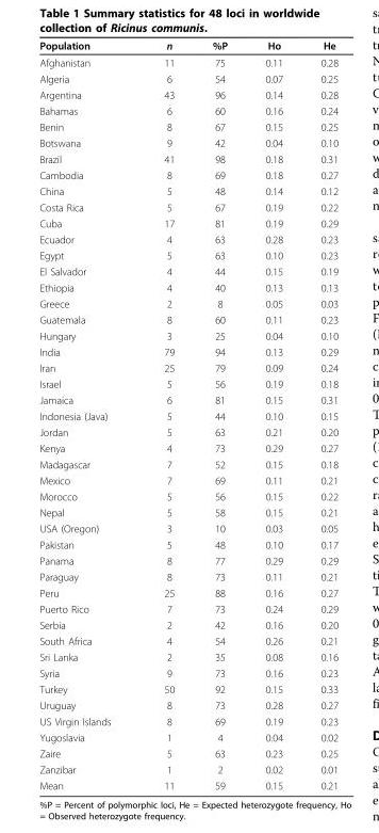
<table><thead><tr><td>Population</td><td>n</td><td>%P</td><td>Ho</td><td>He</td></tr></thead><tbody><tr><td>Afghanistan</td><td>11</td><td>75</td><td>0.11</td><td>0.28</td></tr><tr><td>Algeria</td><td>6</td><td>54</td><td>0.07</td><td>0.25</td></tr><tr><td>Argentina</td><td>43</td><td>96</td><td>0.14</td><td>0.28</td></tr><tr><td>Bahamas</td><td>6</td><td>60</td><td>0.16</td><td>0.24</td></tr><tr><td>Benin</td><td>8</td><td>67</td><td>0.15</td><td>0.25</td></tr><tr><td>Botswana</td><td>9</td><td>42</td><td>0.04</td><td>0.10</td></tr><tr><td>Brazil</td><td>41</td><td>98</td><td>0.18</td><td>0.31</td></tr><tr><td>Cambodia</td><td>8</td><td>69</td><td>0.18</td><td>0.27</td></tr><tr><td>China</td><td>5</td><td>48</td><td>0.14</td><td>0.12</td></tr><tr><td>Costa Rica</td><td>5</td><td>67</td><td>0.19</td><td>0.22</td></tr><tr><td>Cuba</td><td>17</td><td>81</td><td>0.19</td><td>0.29</td></tr><tr><td>Ecuador</td><td>4</td><td>63</td><td>0.28</td><td>0.23</td></tr><tr><td>Egypt</td><td>5</td><td>63</td><td>0.10</td><td>0.23</td></tr><tr><td>El Salvador</td><td>4</td><td>44</td><td>0.15</td><td>0.19</td></tr><tr><td>Ethiopia</td><td>4</td><td>40</td><td>0.13</td><td>0.13</td></tr><tr><td>Greece</td><td>2</td><td>8</td><td>0.05</td><td>0.03</td></tr><tr><td>Guatemala</td><td>8</td><td>60</td><td>0.11</td><td>0.23</td></tr><tr><td>Hungary</td><td>3</td><td>25</td><td>0.04</td><td>0.10</td></tr><tr><td>India</td><td>79</td><td>94</td><td>0.13</td><td>0.29</td></tr><tr><td>Iran</td><td>25</td><td>79</td><td>0.09</td><td>0.24</td></tr><tr><td>Israel</td><td>5</td><td>56</td><td>0.19</td><td>0.18</td></tr><tr><td>Jamaica</td><td>6</td><td>81</td><td>0.15</td><td>0.31</td></tr><tr><td>Indonesia (Java)</td><td>5</td><td>44</td><td>0.10</td><td>0.15</td></tr><tr><td>Jordan</td><td>5</td><td>63</td><td>0.21</td><td>0.20</td></tr><tr><td>Kenya</td><td>4</td><td>73</td><td>0.29</td><td>0.27</td></tr><tr><td>Madagascar</td><td>7</td><td>52</td><td>0.15</td><td>0.18</td></tr><tr><td>Mexico</td><td>7</td><td>69</td><td>0.11</td><td>0.21</td></tr><tr><td>Morocco</td><td>5</td><td>56</td><td>0.15</td><td>0.22</td></tr><tr><td>Nepal</td><td>5</td><td>58</td><td>0.15</td><td>0.21</td></tr><tr><td>USA (Oregon)</td><td>3</td><td>10</td><td>0.03</td><td>0.05</td></tr><tr><td>Pakistan</td><td>5</td><td>48</td><td>0.10</td><td>0.17</td></tr><tr><td>Panama</td><td>8</td><td>77</td><td>0.29</td><td>0.29</td></tr><tr><td>Paraguay</td><td>8</td><td>73</td><td>0.11</td><td>0.21</td></tr><tr><td>Peru</td><td>25</td><td>88</td><td>0.16</td><td>0.27</td></tr><tr><td>Puerto Rico</td><td>7</td><td>73</td><td>0.24</td><td>0.29</td></tr><tr><td>Serbia</td><td>2</td><td>42</td><td>0.16</td><td>0.20</td></tr><tr><td>South Africa</td><td>4</td><td>54</td><td>0.26</td><td>0.21</td></tr><tr><td>Sri Lanka</td><td>2</td><td>35</td><td>0.08</td><td>0.16</td></tr><tr><td>Syria</td><td>9</td><td>73</td><td>0.16</td><td>0.23</td></tr><tr><td>Turkey</td><td>50</td><td>92</td><td>0.15</td><td>0.33</td></tr><tr><td>Uruguay</td><td>8</td><td>73</td><td>0.28</td><td>0.27</td></tr><tr><td>US Virgin Islands</td><td>8</td><td>69</td><td>0.19</td><td>0.23</td></tr><tr><td>Yugoslavia</td><td>1</td><td>4</td><td>0.04</td><td>0.02</td></tr><tr><td>Zaire</td><td>5</td><td>63</td><td>0.23</td><td>0.25</td></tr><tr><td>Zanzibar</td><td>1</td><td>2</td><td>0.02</td><td>0.01</td></tr><tr><td>Mean</td><td>11</td><td>59</td><td>0.15</td><td>0.21</td></tr></tbody></table>